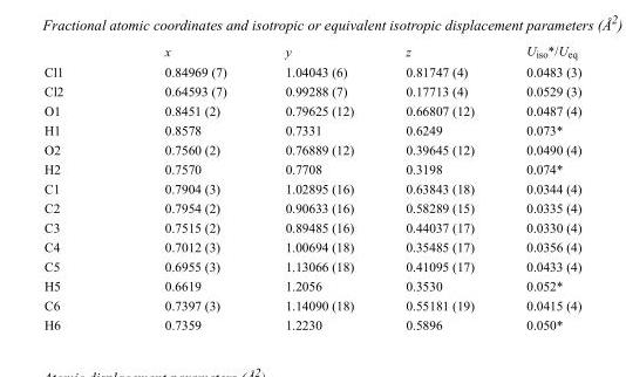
<table><thead><tr><td></td><td>x</td><td>y</td><td>z</td><td>U<sub>iso</sub>*/U<sub>eq</sub></td></tr></thead><tbody><tr><td>Cl1</td><td>0.84969 (7)</td><td>1.04043 (6)</td><td>0.81747 (4)</td><td>0.0483 (3)</td></tr><tr><td>Cl2</td><td>0.64593 (7)</td><td>0.99288 (7)</td><td>0.17713 (4)</td><td>0.0529 (3)</td></tr><tr><td>O1</td><td>0.8451 (2)</td><td>0.79625 (12)</td><td>0.66807 (12)</td><td>0.0487 (4)</td></tr><tr><td>H1</td><td>0.8578</td><td>0.7331</td><td>0.6249</td><td>0.073*</td></tr><tr><td>O2</td><td>0.7560 (2)</td><td>0.76889 (12)</td><td>0.39645 (12)</td><td>0.0490 (4)</td></tr><tr><td>H2</td><td>0.7570</td><td>0.7708</td><td>0.3198</td><td>0.074*</td></tr><tr><td>C1</td><td>0.7904 (3)</td><td>1.02895 (16)</td><td>0.63843 (18)</td><td>0.0344 (4)</td></tr><tr><td>C2</td><td>0.7954 (2)</td><td>0.90633 (16)</td><td>0.58289 (15)</td><td>0.0335 (4)</td></tr><tr><td>C3</td><td>0.7515 (2)</td><td>0.89485 (16)</td><td>0.44037 (17)</td><td>0.0330 (4)</td></tr><tr><td>C4</td><td>0.7012 (3)</td><td>1.00694 (18)</td><td>0.35485 (17)</td><td>0.0356 (4)</td></tr><tr><td>C5</td><td>0.6955 (3)</td><td>1.13066 (18)</td><td>0.41095 (17)</td><td>0.0433 (4)</td></tr><tr><td>H5</td><td>0.6619</td><td>1.2056</td><td>0.3530</td><td>0.052*</td></tr><tr><td>C6</td><td>0.7397 (3)</td><td>1.14090 (18)</td><td>0.55181 (19)</td><td>0.0415 (4)</td></tr><tr><td>H6</td><td>0.7359</td><td>1.2230</td><td>0.5896</td><td>0.050*</td></tr></tbody></table>